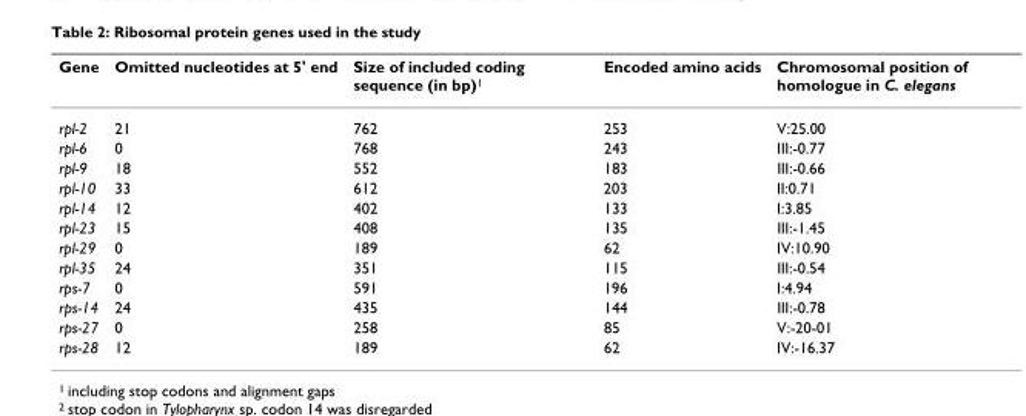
<table><thead><tr><td>Gene</td><td>Omitted nucleotides at 5&#x27; end</td><td>Size of included coding sequence (in bp)<sup>1</sup></td><td>Encoded amino acids</td><td>Chromosomal position of homologue in C. elegans</td></tr></thead><tbody><tr><td>rpl-2</td><td>21</td><td>762</td><td>253</td><td>V:25.00</td></tr><tr><td>rpl-6</td><td>0</td><td>768</td><td>243</td><td>III:-0.77</td></tr><tr><td>rpl-9</td><td>18</td><td>552</td><td>183</td><td>III:-0.66</td></tr><tr><td>rpl-10</td><td>33</td><td>612</td><td>203</td><td>II:0.71</td></tr><tr><td>rpl-14</td><td>12</td><td>402</td><td>133</td><td>I:3.85</td></tr><tr><td>rpl-23</td><td>15</td><td>408</td><td>135</td><td>III:-1.45</td></tr><tr><td>rpl-29</td><td>0</td><td>189</td><td>62</td><td>IV:10.90</td></tr><tr><td>rpl-35</td><td>24</td><td>351</td><td>115</td><td>III:-0.54</td></tr><tr><td>rps-7</td><td>0</td><td>591</td><td>196</td><td>I:4.94</td></tr><tr><td>rps-14</td><td>24</td><td>435</td><td>144</td><td>III:-0.78</td></tr><tr><td>rps-27</td><td>0</td><td>258</td><td>85</td><td>V:-20-01</td></tr><tr><td>rps-28</td><td>12</td><td>189</td><td>62</td><td>IV:-16.37</td></tr></tbody></table>